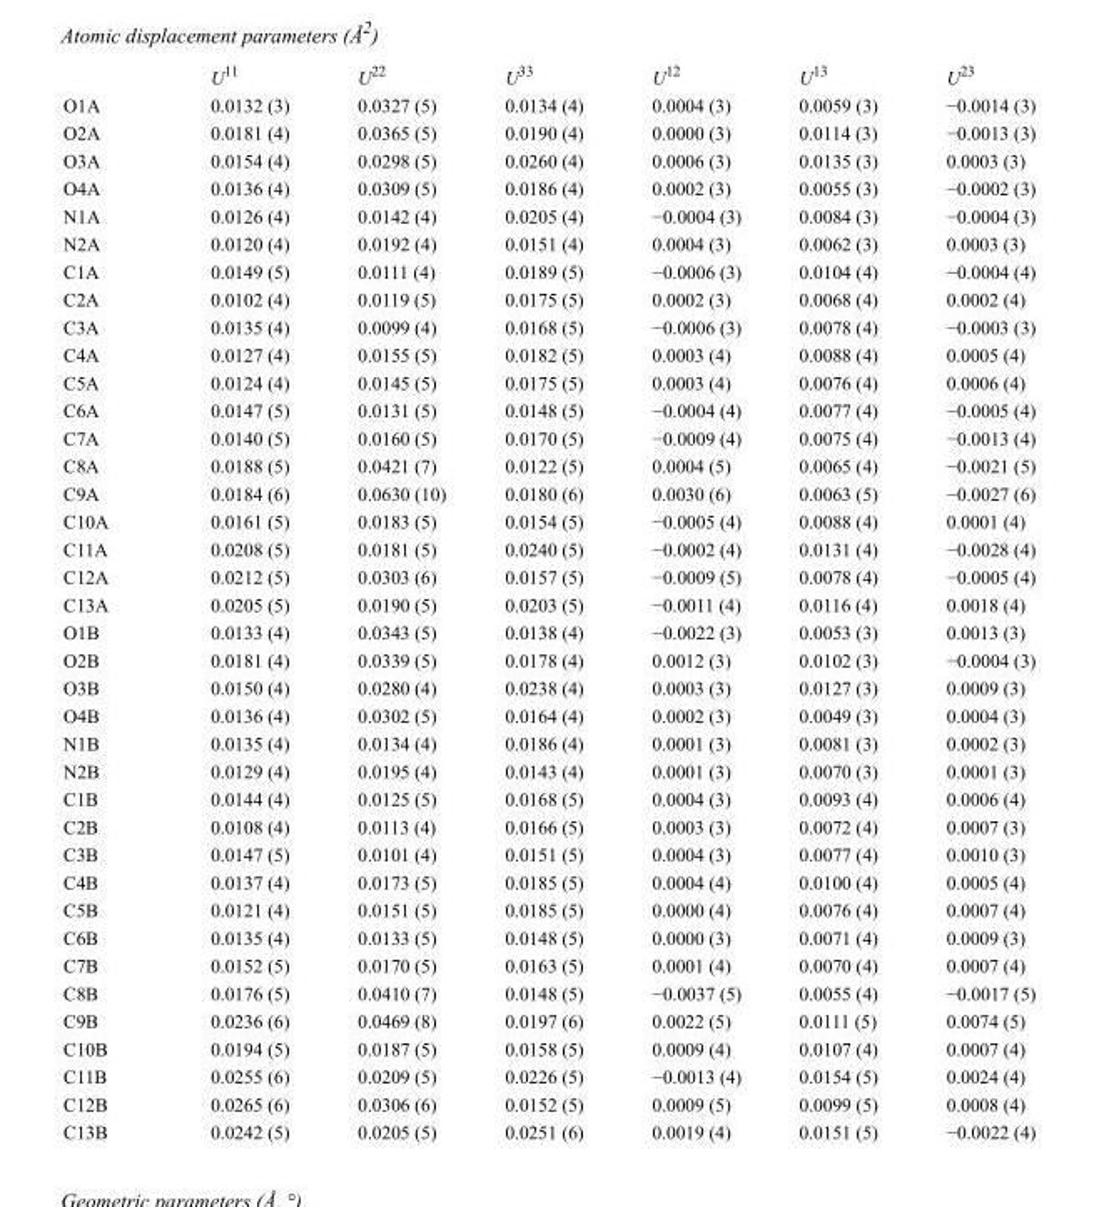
<table><thead><tr><td></td><td>U<sup>11</sup></td><td>U<sup>22</sup></td><td>U<sup>33</sup></td><td>U<sup>12</sup></td><td>U<sup>13</sup></td><td>U<sup>23</sup></td></tr></thead><tbody><tr><td>O1A</td><td>0.0132 (3)</td><td>0.0327 (5)</td><td>0.0134 (4)</td><td>0.0004 (3)</td><td>0.0059 (3)</td><td>−0.0014 (3)</td></tr><tr><td>O2A</td><td>0.0181 (4)</td><td>0.0365 (5)</td><td>0.0190 (4)</td><td>0.0000 (3)</td><td>0.0114 (3)</td><td>−0.0013 (3)</td></tr><tr><td>O3A</td><td>0.0154 (4)</td><td>0.0298 (5)</td><td>0.0260 (4)</td><td>0.0006 (3)</td><td>0.0135 (3)</td><td>0.0003 (3)</td></tr><tr><td>O4A</td><td>0.0136 (4)</td><td>0.0309 (5)</td><td>0.0186 (4)</td><td>0.0002 (3)</td><td>0.0055 (3)</td><td>−0.0002 (3)</td></tr><tr><td>N1A</td><td>0.0126 (4)</td><td>0.0142 (4)</td><td>0.0205 (4)</td><td>−0.0004 (3)</td><td>0.0084 (3)</td><td>−0.0004 (3)</td></tr><tr><td>N2A</td><td>0.0120 (4)</td><td>0.0192 (4)</td><td>0.0151 (4)</td><td>0.0004 (3)</td><td>0.0062 (3)</td><td>0.0003 (3)</td></tr><tr><td>C1A</td><td>0.0149 (5)</td><td>0.0111 (4)</td><td>0.0189 (5)</td><td>−0.0006 (3)</td><td>0.0104 (4)</td><td>−0.0004 (4)</td></tr><tr><td>C2A</td><td>0.0102 (4)</td><td>0.0119 (5)</td><td>0.0175 (5)</td><td>0.0002 (3)</td><td>0.0068 (4)</td><td>0.0002 (4)</td></tr><tr><td>C3A</td><td>0.0135 (4)</td><td>0.0099 (4)</td><td>0.0168 (5)</td><td>−0.0006 (3)</td><td>0.0078 (4)</td><td>−0.0003 (3)</td></tr><tr><td>C4A</td><td>0.0127 (4)</td><td>0.0155 (5)</td><td>0.0182 (5)</td><td>0.0003 (4)</td><td>0.0088 (4)</td><td>0.0005 (4)</td></tr><tr><td>C5A</td><td>0.0124 (4)</td><td>0.0145 (5)</td><td>0.0175 (5)</td><td>0.0003 (4)</td><td>0.0076 (4)</td><td>0.0006 (4)</td></tr><tr><td>C6A</td><td>0.0147 (5)</td><td>0.0131 (5)</td><td>0.0148 (5)</td><td>−0.0004 (4)</td><td>0.0077 (4)</td><td>−0.0005 (4)</td></tr><tr><td>C7A</td><td>0.0140 (5)</td><td>0.0160 (5)</td><td>0.0170 (5)</td><td>−0.0009 (4)</td><td>0.0075 (4)</td><td>−0.0013 (4)</td></tr><tr><td>C8A</td><td>0.0188 (5)</td><td>0.0421 (7)</td><td>0.0122 (5)</td><td>0.0004 (5)</td><td>0.0065 (4)</td><td>−0.0021 (5)</td></tr><tr><td>C9A</td><td>0.0184 (6)</td><td>0.0630 (10)</td><td>0.0180 (6)</td><td>0.0030 (6)</td><td>0.0063 (5)</td><td>−0.0027 (6)</td></tr><tr><td>C10A</td><td>0.0161 (5)</td><td>0.0183 (5)</td><td>0.0154 (5)</td><td>−0.0005 (4)</td><td>0.0088 (4)</td><td>0.0001 (4)</td></tr><tr><td>C11A</td><td>0.0208 (5)</td><td>0.0181 (5)</td><td>0.0240 (5)</td><td>−0.0002 (4)</td><td>0.0131 (4)</td><td>−0.0028 (4)</td></tr><tr><td>C12A</td><td>0.0212 (5)</td><td>0.0303 (6)</td><td>0.0157 (5)</td><td>−0.0009 (5)</td><td>0.0078 (4)</td><td>−0.0005 (4)</td></tr><tr><td>C13A</td><td>0.0205 (5)</td><td>0.0190 (5)</td><td>0.0203 (5)</td><td>−0.0011 (4)</td><td>0.0116 (4)</td><td>0.0018 (4)</td></tr><tr><td>O1B</td><td>0.0133 (4)</td><td>0.0343 (5)</td><td>0.0138 (4)</td><td>−0.0022 (3)</td><td>0.0053 (3)</td><td>0.0013 (3)</td></tr><tr><td>O2B</td><td>0.0181 (4)</td><td>0.0339 (5)</td><td>0.0178 (4)</td><td>0.0012 (3)</td><td>0.0102 (3)</td><td>−0.0004 (3)</td></tr><tr><td>O3B</td><td>0.0150 (4)</td><td>0.0280 (4)</td><td>0.0238 (4)</td><td>0.0003 (3)</td><td>0.0127 (3)</td><td>0.0009 (3)</td></tr><tr><td>O4B</td><td>0.0136 (4)</td><td>0.0302 (5)</td><td>0.0164 (4)</td><td>0.0002 (3)</td><td>0.0049 (3)</td><td>0.0004 (3)</td></tr><tr><td>N1B</td><td>0.0135 (4)</td><td>0.0134 (4)</td><td>0.0186 (4)</td><td>0.0001 (3)</td><td>0.0081 (3)</td><td>0.0002 (3)</td></tr><tr><td>N2B</td><td>0.0129 (4)</td><td>0.0195 (4)</td><td>0.0143 (4)</td><td>0.0001 (3)</td><td>0.0070 (3)</td><td>0.0001 (3)</td></tr><tr><td>C1B</td><td>0.0144 (4)</td><td>0.0125 (5)</td><td>0.0168 (5)</td><td>0.0004 (3)</td><td>0.0093 (4)</td><td>0.0006 (4)</td></tr><tr><td>C2B</td><td>0.0108 (4)</td><td>0.0113 (4)</td><td>0.0166 (5)</td><td>0.0003 (3)</td><td>0.0072 (4)</td><td>0.0007 (3)</td></tr><tr><td>C3B</td><td>0.0147 (5)</td><td>0.0101 (4)</td><td>0.0151 (5)</td><td>0.0004 (3)</td><td>0.0077 (4)</td><td>0.0010 (3)</td></tr><tr><td>C4B</td><td>0.0137 (4)</td><td>0.0173 (5)</td><td>0.0185 (5)</td><td>0.0004 (4)</td><td>0.0100 (4)</td><td>0.0005 (4)</td></tr><tr><td>C5B</td><td>0.0121 (4)</td><td>0.0151 (5)</td><td>0.0185 (5)</td><td>0.0000 (4)</td><td>0.0076 (4)</td><td>0.0007 (4)</td></tr><tr><td>C6B</td><td>0.0135 (4)</td><td>0.0133 (5)</td><td>0.0148 (5)</td><td>0.0000 (3)</td><td>0.0071 (4)</td><td>0.0009 (3)</td></tr><tr><td>C7B</td><td>0.0152 (5)</td><td>0.0170 (5)</td><td>0.0163 (5)</td><td>0.0001 (4)</td><td>0.0070 (4)</td><td>0.0007 (4)</td></tr><tr><td>C8B</td><td>0.0176 (5)</td><td>0.0410 (7)</td><td>0.0148 (5)</td><td>−0.0037 (5)</td><td>0.0055 (4)</td><td>−0.0017 (5)</td></tr><tr><td>C9B</td><td>0.0236 (6)</td><td>0.0469 (8)</td><td>0.0197 (6)</td><td>0.0022 (5)</td><td>0.0111 (5)</td><td>0.0074 (5)</td></tr><tr><td>C10B</td><td>0.0194 (5)</td><td>0.0187 (5)</td><td>0.0158 (5)</td><td>0.0009 (4)</td><td>0.0107 (4)</td><td>0.0007 (4)</td></tr><tr><td>C11B</td><td>0.0255 (6)</td><td>0.0209 (5)</td><td>0.0226 (5)</td><td>−0.0013 (4)</td><td>0.0154 (5)</td><td>0.0024 (4)</td></tr><tr><td>C12B</td><td>0.0265 (6)</td><td>0.0306 (6)</td><td>0.0152 (5)</td><td>0.0009 (5)</td><td>0.0099 (5)</td><td>0.0008 (4)</td></tr><tr><td>C13B</td><td>0.0242 (5)</td><td>0.0205 (5)</td><td>0.0251 (6)</td><td>0.0019 (4)</td><td>0.0151 (5)</td><td>−0.0022 (4)</td></tr></tbody></table>